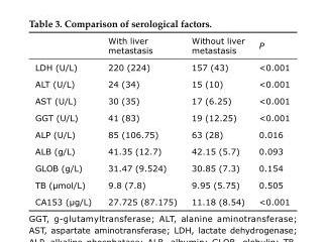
<table><thead><tr><td></td><td>With liver metastasis</td><td>Without liver metastasis</td><td>P</td></tr></thead><tbody><tr><td>LDH (U/L)</td><td>220 (224)</td><td>157 (43)</td><td>&lt;0.001</td></tr><tr><td>ALT (U/L)</td><td>24 (34)</td><td>15 (10)</td><td>&lt;0.001</td></tr><tr><td>AST (U/L)</td><td>30 (35)</td><td>17 (6.25)</td><td>&lt;0.001</td></tr><tr><td>GGT (U/L)</td><td>41 (83)</td><td>19 (12.25)</td><td>&lt;0.001</td></tr><tr><td>ALP (U/L)</td><td>85 (106.75)</td><td>63 (28)</td><td>0.016</td></tr><tr><td>ALB (g/L)</td><td>41.35 (12.7)</td><td>42.15 (5.7)</td><td>0.093</td></tr><tr><td>GLOB (g/L)</td><td>31.47 (9.524)</td><td>30.85 (7.3)</td><td>0.154</td></tr><tr><td>TB (μmol/L)</td><td>9.8 (7.8)</td><td>9.95 (5.75)</td><td>0.505</td></tr><tr><td>CA153 (μg/L)</td><td>27.725 (87.175)</td><td>11.18 (8.54)</td><td>&lt;0.001</td></tr></tbody></table>